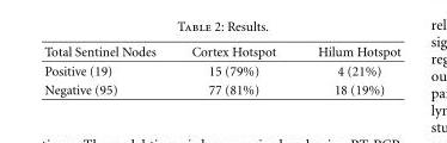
<table><thead><tr><td>Total Sentinel Nodes</td><td>Cortex Hotspot</td><td>Hilum Hotspot</td></tr></thead><tbody><tr><td>Positive (19)</td><td>15 (79%)</td><td>4 (21%)</td></tr><tr><td>Negative (95)</td><td>77 (81%)</td><td>18 (19%)</td></tr></tbody></table>